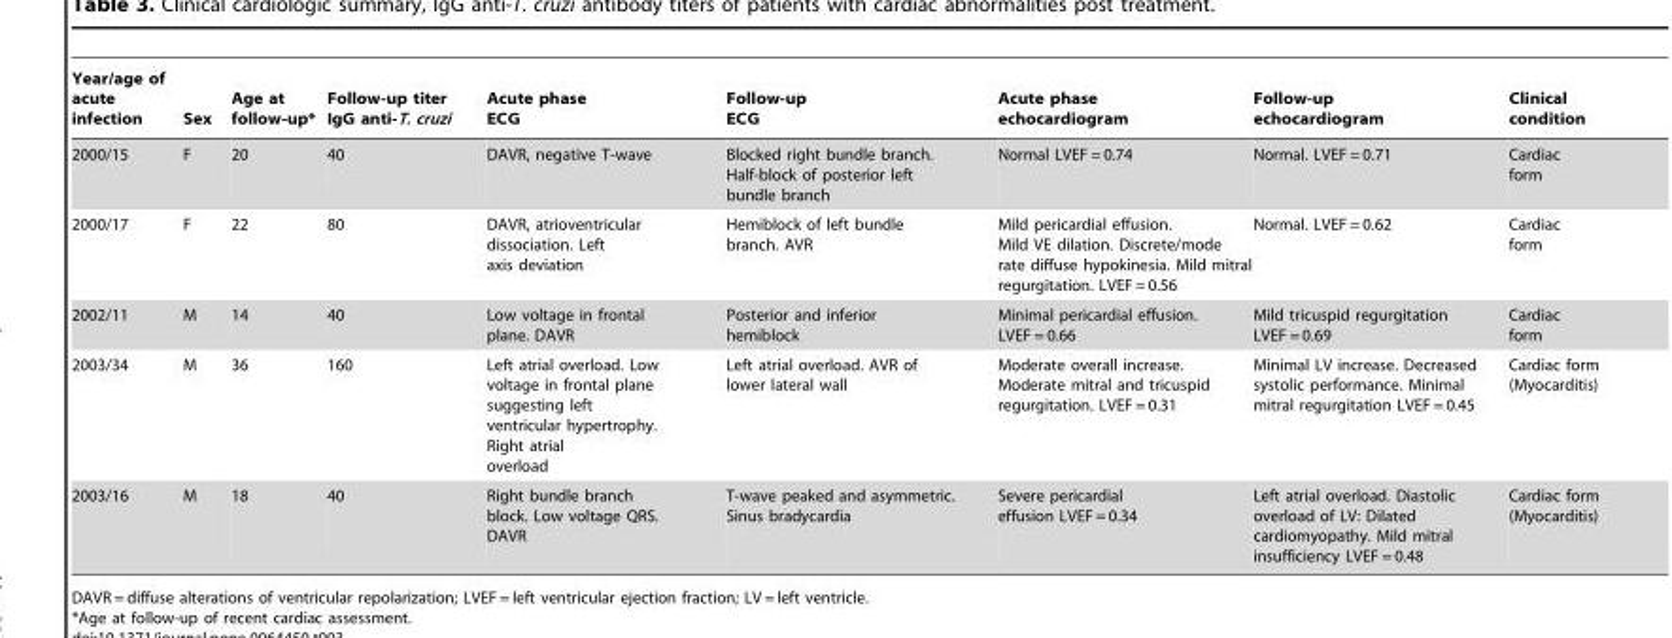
<table><thead><tr><td>Year/age of acute infection</td><td>Sex</td><td>Age at follow-up*</td><td>Follow-up titer IgG anti-T. cruzi</td><td>Acute phase ECG</td><td>Follow-up ECG</td><td>Acute phase echocardiogram</td><td>Follow-up echocardiogram</td><td>Clinical condition</td></tr></thead><tbody><tr><td>2000/15</td><td>F</td><td>20</td><td>40</td><td>DAVR, negative T-wave</td><td>Blocked right bundle branch. Half-block of posterior left bundle branch</td><td>Normal LVEF = 0.74</td><td>Normal. LVEF = 0.71</td><td>Cardiac form</td></tr><tr><td>2000/17</td><td>F</td><td>22</td><td>80</td><td>DAVR, atrioventricular dissociation. Left axis deviation</td><td>Hemiblock of left bundle branch. AVR</td><td>Mild pericardial effusion. Mild VE dilation. Discrete/mode rate diffuse hypokinesia. Mild mitral regurgitation. LVEF = 0.56</td><td>Normal. LVEF = 0.62</td><td>Cardiac form</td></tr><tr><td>2002/11</td><td>M</td><td>14</td><td>40</td><td>Low voltage in frontal plane. DAVR</td><td>Posterior and inferior hemiblock</td><td>Minimal pericardial effusion. LVEF = 0.66</td><td>Mild tricuspid regurgitation LVEF = 0.69</td><td>Cardiac form</td></tr><tr><td>2003/34</td><td>M</td><td>36</td><td>160</td><td>Left atrial overload. Low voltage in frontal plane suggesting left ventricular hypertrophy. Right atrial overload</td><td>Left atrial overload. AVR of lower lateral wall</td><td>Moderate overall increase. Moderate mitral and tricuspid regurgitation. LVEF = 0.31</td><td>Minimal LV increase. Decreased systolic performance. Minimal mitral regurgitation LVEF = 0.45</td><td>Cardiac form (Myocarditis)</td></tr><tr><td>2003/16</td><td>M</td><td>18</td><td>40</td><td>Right bundle branch block. Low voltage QRS. DAVR</td><td>T-wave peaked and asymmetric. Sinus bradycardia</td><td>Severe pericardial effusion LVEF = 0.34</td><td>Left atrial overload. Diastolic overload of LV: Dilated cardiomyopathy. Mild mitral insufficiency LVEF = 0.48</td><td>Cardiac form (Myocarditis)</td></tr></tbody></table>